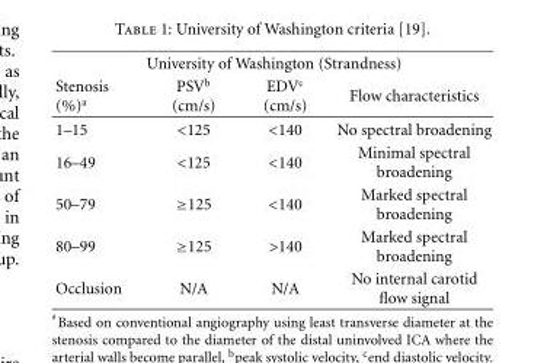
<table><thead><tr><td colspan="4">University of Washington (Strandness)</td></tr><tr><td>Stenosis (%)<sup>a</sup></td><td>PSV<sup>b</sup> (cm/s)</td><td>EDV<sup>c</sup> (cm/s)</td><td>Flow characteristics</td></tr></thead><tbody><tr><td>1–15</td><td>&lt;125</td><td>&lt;140</td><td>No spectral broadening</td></tr><tr><td>16–49</td><td>&lt;125</td><td>&lt;140</td><td>Minimal spectral broadening</td></tr><tr><td>50–79</td><td>≥125</td><td>&lt;140</td><td>Marked spectral broadening</td></tr><tr><td>80–99</td><td>≥125</td><td>&gt;140</td><td>Marked spectral broadening</td></tr><tr><td>Occlusion</td><td>N/A</td><td>N/A</td><td>No internal carotid flow signal</td></tr></tbody></table>